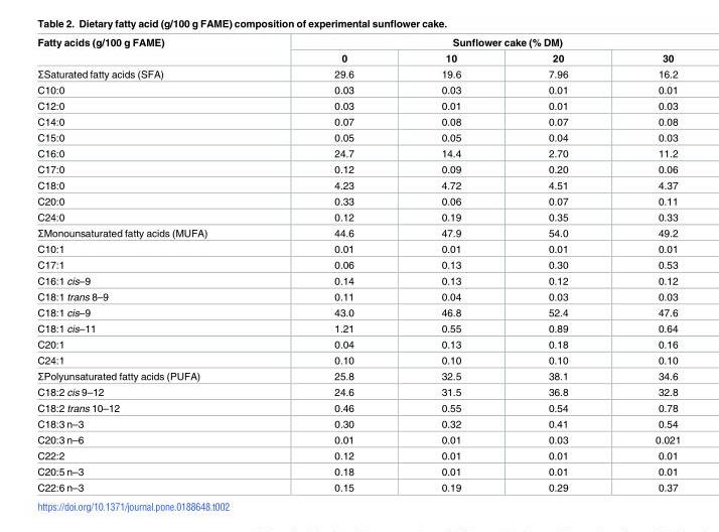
<table><thead><tr><td rowspan="2">Fatty acids (g/100 g FAME)</td><td colspan="4">Sunflower cake (% DM)</td></tr><tr><td>0</td><td>10</td><td>20</td><td>30</td></tr></thead><tbody><tr><td>ΣSaturated fatty acids (SFA)</td><td>29.6</td><td>19.6</td><td>7.96</td><td>16.2</td></tr><tr><td>C10:0</td><td>0.03</td><td>0.03</td><td>0.01</td><td>0.01</td></tr><tr><td>C12:0</td><td>0.03</td><td>0.01</td><td>0.01</td><td>0.03</td></tr><tr><td>C14:0</td><td>0.07</td><td>0.08</td><td>0.07</td><td>0.08</td></tr><tr><td>C15:0</td><td>0.05</td><td>0.05</td><td>0.04</td><td>0.03</td></tr><tr><td>C16:0</td><td>24.7</td><td>14.4</td><td>2.70</td><td>11.2</td></tr><tr><td>C17:0</td><td>0.12</td><td>0.09</td><td>0.20</td><td>0.06</td></tr><tr><td>C18:0</td><td>4.23</td><td>4.72</td><td>4.51</td><td>4.37</td></tr><tr><td>C20:0</td><td>0.33</td><td>0.06</td><td>0.07</td><td>0.11</td></tr><tr><td>C24:0</td><td>0.12</td><td>0.19</td><td>0.35</td><td>0.33</td></tr><tr><td>ΣMonounsaturated fatty acids (MUFA)</td><td>44.6</td><td>47.9</td><td>54.0</td><td>49.2</td></tr><tr><td>C10:1</td><td>0.01</td><td>0.01</td><td>0.01</td><td>0.01</td></tr><tr><td>C17:1</td><td>0.06</td><td>0.13</td><td>0.30</td><td>0.53</td></tr><tr><td>C16:1 cis–9</td><td>0.14</td><td>0.13</td><td>0.12</td><td>0.12</td></tr><tr><td>C18:1 trans 8–9</td><td>0.11</td><td>0.04</td><td>0.03</td><td>0.03</td></tr><tr><td>C18:1 cis–9</td><td>43.0</td><td>46.8</td><td>52.4</td><td>47.6</td></tr><tr><td>C18:1 cis–11</td><td>1.21</td><td>0.55</td><td>0.89</td><td>0.64</td></tr><tr><td>C20:1</td><td>0.04</td><td>0.13</td><td>0.18</td><td>0.16</td></tr><tr><td>C24:1</td><td>0.10</td><td>0.10</td><td>0.10</td><td>0.10</td></tr><tr><td>ΣPolyunsaturated fatty acids (PUFA)</td><td>25.8</td><td>32.5</td><td>38.1</td><td>34.6</td></tr><tr><td>C18:2 cis 9–12</td><td>24.6</td><td>31.5</td><td>36.8</td><td>32.8</td></tr><tr><td>C18:2 trans 10–12</td><td>0.46</td><td>0.55</td><td>0.54</td><td>0.78</td></tr><tr><td>C18:3 n–3</td><td>0.30</td><td>0.32</td><td>0.41</td><td>0.54</td></tr><tr><td>C20:3 n–6</td><td>0.01</td><td>0.01</td><td>0.03</td><td>0.021</td></tr><tr><td>C22:2</td><td>0.12</td><td>0.01</td><td>0.01</td><td>0.01</td></tr><tr><td>C20:5 n–3</td><td>0.18</td><td>0.01</td><td>0.01</td><td>0.01</td></tr><tr><td>C22:6 n–3</td><td>0.15</td><td>0.19</td><td>0.29</td><td>0.37</td></tr></tbody></table>